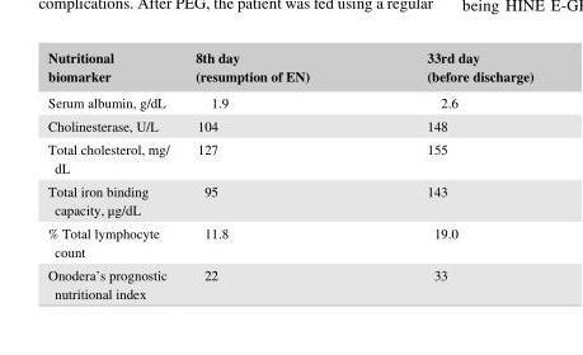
<table><thead><tr><td>Nutritional biomarker</td><td>8th day (resumption of EN)</td><td>33rd day (before discharge)</td></tr></thead><tbody><tr><td>Serum albumin, g/dL</td><td>1.9</td><td>2.6</td></tr><tr><td>Cholinesterase, U/L</td><td>104</td><td>148</td></tr><tr><td>Total cholesterol, mg/ dL</td><td>127</td><td>155</td></tr><tr><td>Total iron binding capacity, μg/dL</td><td>95</td><td>143</td></tr><tr><td>% Total lymphocyte count</td><td>11.8</td><td>19.0</td></tr><tr><td>Onodera’s prognostic nutritional index</td><td>22</td><td>33</td></tr></tbody></table>